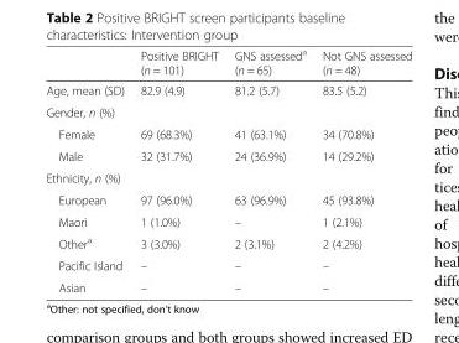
<table><thead><tr><td></td><td>Positive BRIGHT (n = 101)</td><td>GNS assessed<sup>a</sup> (n = 65)</td><td>Not GNS assessed (n = 48)</td></tr></thead><tbody><tr><td>Age, mean (SD)</td><td>82.9 (4.9)</td><td>81.2 (5.7)</td><td>83.5 (5.2)</td></tr><tr><td colspan="4">Gender, n (%)</td></tr><tr><td>Female</td><td>69 (68.3%)</td><td>41 (63.1%)</td><td>34 (70.8%)</td></tr><tr><td>Male</td><td>32 (31.7%)</td><td>24 (36.9%)</td><td>14 (29.2%)</td></tr><tr><td colspan="4">Ethnicity, n (%)</td></tr><tr><td>European</td><td>97 (96.0%)</td><td>63 (96.9%)</td><td>45 (93.8%)</td></tr><tr><td>Maori</td><td>1 (1.0%)</td><td>–</td><td>1 (2.1%)</td></tr><tr><td>Other<sup>a</sup></td><td>3 (3.0%)</td><td>2 (3.1%)</td><td>2 (4.2%)</td></tr><tr><td>Pacific Island</td><td>–</td><td>–</td><td>–</td></tr><tr><td>Asian</td><td>–</td><td>–</td><td>–</td></tr></tbody></table>